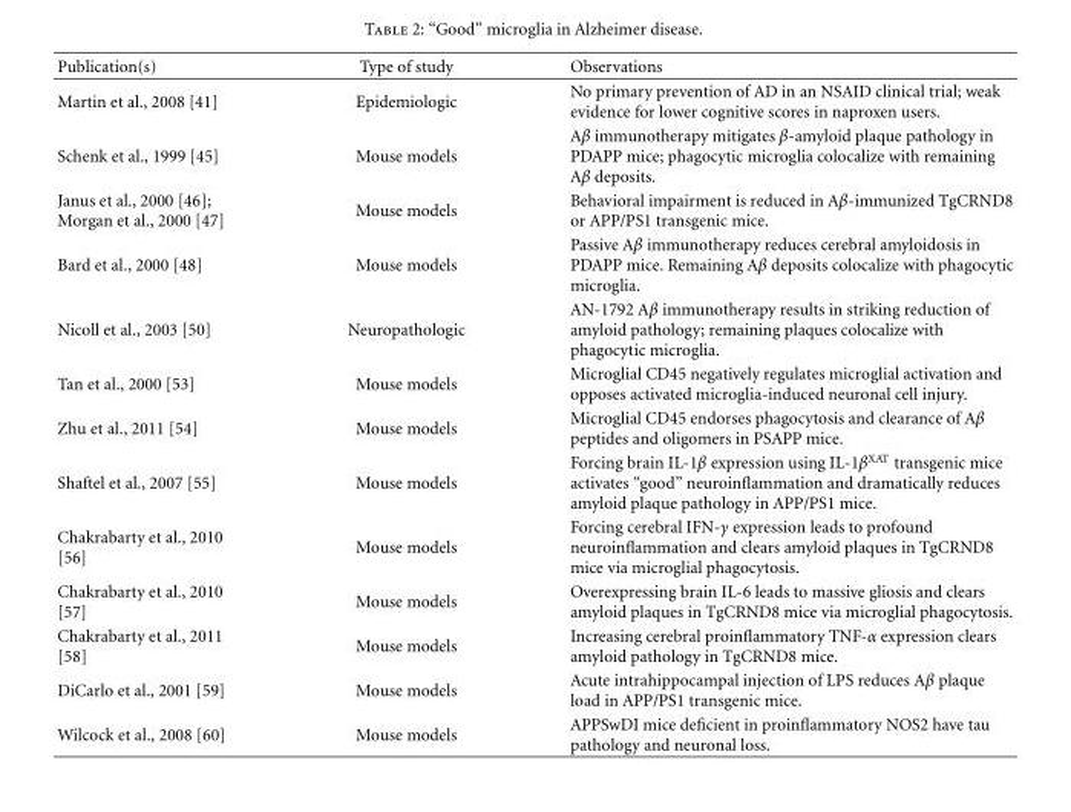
<table><thead><tr><td>Publication(s)</td><td>Type of study</td><td>Observations</td></tr></thead><tbody><tr><td>Martin et al., 2008 [41]</td><td>Epidemiologic</td><td>No primary prevention of AD in an NSAID clinical trial; weak evidence for lower cognitive scores in naproxen users.</td></tr><tr><td>Schenk et al., 1999 [45]</td><td>Mouse models</td><td>Aβ immunotherapy mitigates β-amyloid plaque pathology in PDAPP mice; phagocytic microglia colocalize with remaining Aβ deposits.</td></tr><tr><td>Janus et al., 2000 [46]; Morgan et al., 2000 [47]</td><td>Mouse models</td><td>Behavioral impairment is reduced in Aβ-immunized TgCRND8 or APP/PS1 transgenic mice.</td></tr><tr><td>Bard et al., 2000 [48]</td><td>Mouse models</td><td>Passive Aβ immunotherapy reduces cerebral amyloidosis in PDAPP mice. Remaining Aβ deposits colocalize with phagocytic microglia.</td></tr><tr><td>Nicoll et al., 2003 [50]</td><td>Neuropathologic</td><td>AN-1792 Aβ immunotherapy results in striking reduction of amyloid pathology; remaining plaques colocalize with phagocytic microglia.</td></tr><tr><td>Tan et al., 2000 [53]</td><td>Mouse models</td><td>Microglial CD45 negatively regulates microglial activation and opposes activated microglia-induced neuronal cell injury.</td></tr><tr><td>Zhu et al., 2011 [54]</td><td>Mouse models</td><td>Microglial CD45 endorses phagocytosis and clearance of Aβ peptides and oligomers in PSAPP mice.</td></tr><tr><td>Shaftel et al., 2007 [55]</td><td>Mouse models</td><td>Forcing brain IL-1β expression using IL-1β<sup>XAT</sup> transgenic mice activates “good” neuroinflammation and dramatically reduces amyloid plaque pathology in APP/PS1 mice.</td></tr><tr><td>Chakrabarty et al., 2010 [56]</td><td>Mouse models</td><td>Forcing cerebral IFN-γ expression leads to profound neuroinflammation and clears amyloid plaques in TgCRND8 mice via microglial phagocytosis.</td></tr><tr><td>Chakrabarty et al., 2010 [57]</td><td>Mouse models</td><td>Overexpressing brain IL-6 leads to massive gliosis and clears amyloid plaques in TgCRND8 mice via microglial phagocytosis.</td></tr><tr><td>Chakrabarty et al., 2011 [58]</td><td>Mouse models</td><td>Increasing cerebral proinflammatory TNF-α expression clears amyloid pathology in TgCRND8 mice.</td></tr><tr><td>DiCarlo et al., 2001 [59]</td><td>Mouse models</td><td>Acute intrahippocampal injection of LPS reduces Aβ plaque load in APP/PS1 transgenic mice.</td></tr><tr><td>Wilcock et al., 2008 [60]</td><td>Mouse models</td><td>APPSwDI mice deficient in proinflammatory NOS2 have tau pathology and neuronal loss.</td></tr></tbody></table>